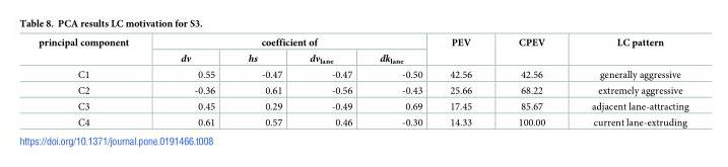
<table><thead><tr><td rowspan="2">principal component</td><td colspan="4">coefficient of</td><td rowspan="2">PEV</td><td rowspan="2">CPEV</td><td rowspan="2">LC pattern</td></tr><tr><td>dv</td><td>hs</td><td>dv<sub>lane</sub></td><td>dk<sub>lane</sub></td></tr></thead><tbody><tr><td>C1</td><td>0.55</td><td>-0.47</td><td>-0.47</td><td>-0.50</td><td>42.56</td><td>42.56</td><td>generally aggressive</td></tr><tr><td>C2</td><td>-0.36</td><td>0.61</td><td>-0.56</td><td>-0.43</td><td>25.66</td><td>68.22</td><td>extremely aggressive</td></tr><tr><td>C3</td><td>0.45</td><td>0.29</td><td>-0.49</td><td>0.69</td><td>17.45</td><td>85.67</td><td>adjacent lane-attracting</td></tr><tr><td>C4</td><td>0.61</td><td>0.57</td><td>0.46</td><td>-0.30</td><td>14.33</td><td>100.00</td><td>current lane-extruding</td></tr></tbody></table>